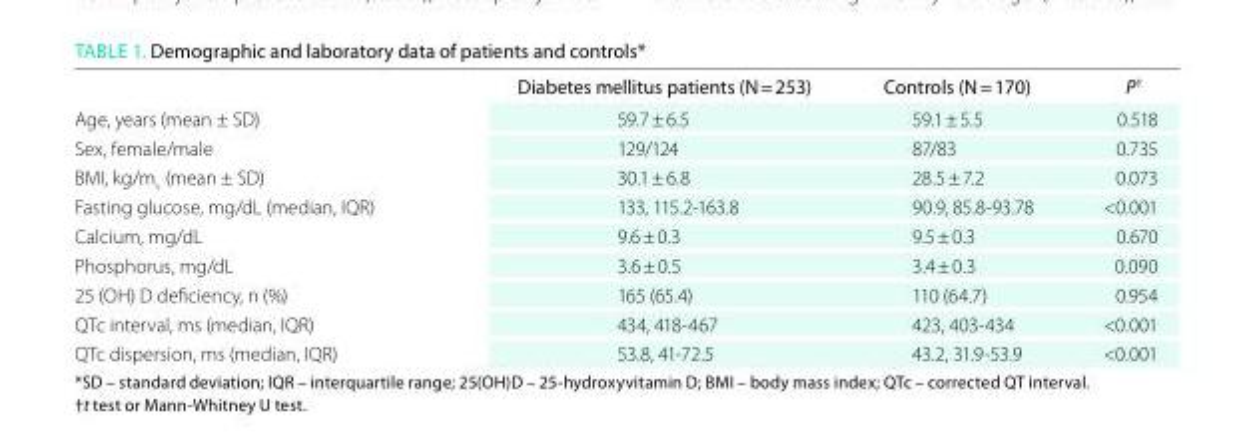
<table><thead><tr><td></td><td>Diabetes mellitus patients (n = 253)</td><td>Controls (n = 170)</td><td>P<sup>†</sup></td></tr></thead><tbody><tr><td>Age, years (mean ± SD)</td><td>59.7 ± 6.5</td><td>59.1 ± 5.5</td><td>0.518</td></tr><tr><td>Sex, female/male</td><td>129/124</td><td>87/83</td><td>0.735</td></tr><tr><td>BMI, kg/m˛ (mean ± SD)</td><td>30.1 ± 6.8</td><td>28.5 ± 7.2</td><td>0.073</td></tr><tr><td>Fasting glucose, mg/dL (median, IQR)</td><td>133, 115.2-163.8</td><td>90.9, 85.8-93.78</td><td>&lt;0.001</td></tr><tr><td>Calcium, mg/dL</td><td>9.6 ± 0.3</td><td>9.5 ± 0.3</td><td>0.670</td></tr><tr><td>Phosphorus, mg/dL</td><td>3.6 ± 0.5</td><td>3.4 ± 0.3</td><td>0.090</td></tr><tr><td>25 (OH) D deficiency, n (%)</td><td>165 (65.4)</td><td>110 (64.7)</td><td>0.954</td></tr><tr><td>QTc interval, ms (median, IQR)</td><td>434, 418-467</td><td>423, 403-434</td><td>&lt;0.001</td></tr><tr><td>QTc dispersion, ms (median, IQR)</td><td>53.8, 41-72.5</td><td>43.2, 31.9-53.9</td><td>&lt;0.001</td></tr></tbody></table>